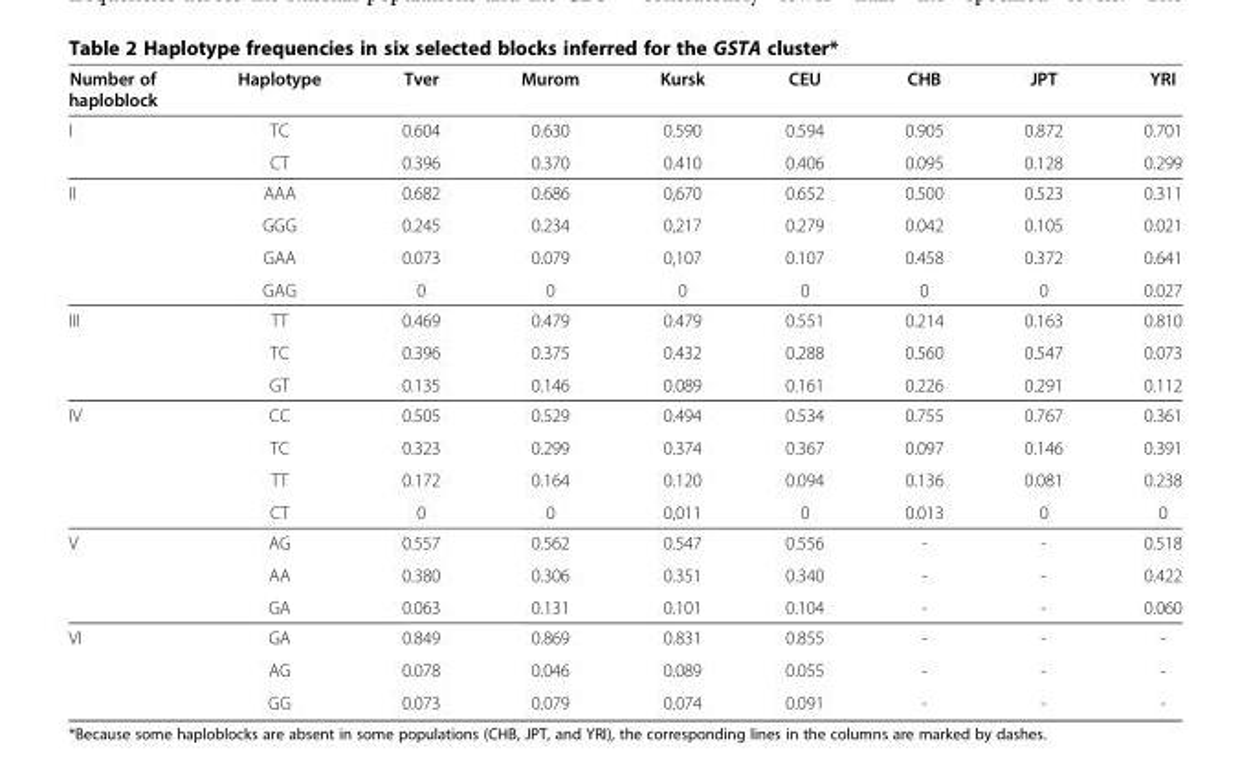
<table><thead><tr><td>Number of haploblock</td><td>Haplotype</td><td>Tver</td><td>Murom</td><td>Kursk</td><td>CEU</td><td>CHB</td><td>JPT</td><td>YRI</td></tr></thead><tbody><tr><td rowspan="2">I</td><td>ТС</td><td>0.604</td><td>0.630</td><td>0.590</td><td>0.594</td><td>0.905</td><td>0.872</td><td>0.701</td></tr><tr><td>CT</td><td>0.396</td><td>0.370</td><td>0.410</td><td>0.406</td><td>0.095</td><td>0.128</td><td>0.299</td></tr><tr><td rowspan="4">II</td><td>AAA</td><td>0.682</td><td>0.686</td><td>0,670</td><td>0.652</td><td>0.500</td><td>0.523</td><td>0.311</td></tr><tr><td>GGG</td><td>0.245</td><td>0.234</td><td>0,217</td><td>0.279</td><td>0.042</td><td>0.105</td><td>0.021</td></tr><tr><td>GAA</td><td>0.073</td><td>0.079</td><td>0,107</td><td>0.107</td><td>0.458</td><td>0.372</td><td>0.641</td></tr><tr><td>GAG</td><td>0</td><td>0</td><td>0</td><td>0</td><td>0</td><td>0</td><td>0.027</td></tr><tr><td rowspan="3">III</td><td>TT</td><td>0.469</td><td>0.479</td><td>0.479</td><td>0.551</td><td>0.214</td><td>0.163</td><td>0.810</td></tr><tr><td>TC</td><td>0.396</td><td>0.375</td><td>0.432</td><td>0.288</td><td>0.560</td><td>0.547</td><td>0.073</td></tr><tr><td>GT</td><td>0.135</td><td>0.146</td><td>0.089</td><td>0.161</td><td>0.226</td><td>0.291</td><td>0.112</td></tr><tr><td rowspan="4">IV</td><td>CC</td><td>0.505</td><td>0.529</td><td>0.494</td><td>0.534</td><td>0.755</td><td>0.767</td><td>0.361</td></tr><tr><td>TC</td><td>0.323</td><td>0.299</td><td>0.374</td><td>0.367</td><td>0.097</td><td>0.146</td><td>0.391</td></tr><tr><td>TT</td><td>0.172</td><td>0.164</td><td>0.120</td><td>0.094</td><td>0.136</td><td>0.081</td><td>0.238</td></tr><tr><td>СТ</td><td>0</td><td>0</td><td>0,011</td><td>0</td><td>0.013</td><td>0</td><td>0</td></tr><tr><td rowspan="3">V</td><td>AG</td><td>0.557</td><td>0.562</td><td>0.547</td><td>0.556</td><td>-</td><td>-</td><td>0.518</td></tr><tr><td>AA</td><td>0.380</td><td>0.306</td><td>0.351</td><td>0.340</td><td>-</td><td>-</td><td>0.422</td></tr><tr><td>GA</td><td>0.063</td><td>0.131</td><td>0.101</td><td>0.104</td><td>-</td><td>-</td><td>0.060</td></tr><tr><td rowspan="3">VI</td><td>GA</td><td>0.849</td><td>0.869</td><td>0.831</td><td>0.855</td><td>-</td><td>-</td><td>-</td></tr><tr><td>AG</td><td>0.078</td><td>0.046</td><td>0.089</td><td>0.055</td><td>-</td><td>-</td><td>-</td></tr><tr><td>GG</td><td>0.073</td><td>0.079</td><td>0.074</td><td>0.091</td><td>-</td><td>-</td><td>-</td></tr></tbody></table>